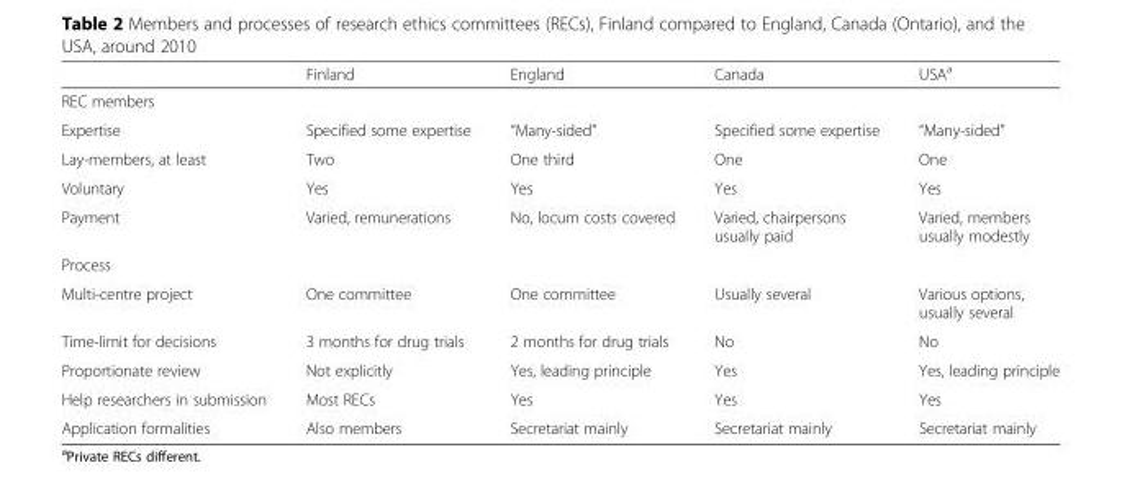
<table><thead><tr><td></td><td>Finland</td><td>England</td><td>Canada</td><td>USA<sup>a</sup></td></tr></thead><tbody><tr><td colspan="5">REC members</td></tr><tr><td>Expertise</td><td>Specified some expertise</td><td>“Many-sided”</td><td>Specified some expertise</td><td>“Many-sided”</td></tr><tr><td>Lay-members, at least</td><td>Two</td><td>One third</td><td>One</td><td>One</td></tr><tr><td>Voluntary</td><td>Yes</td><td>Yes</td><td>Yes</td><td>Yes</td></tr><tr><td>Payment</td><td>Varied, remunerations</td><td>No, locum costs covered</td><td>Varied, chairpersons usually paid</td><td>Varied, members usually modestly</td></tr><tr><td colspan="5">Process</td></tr><tr><td>Multi-centre project</td><td>One committee</td><td>One committee</td><td>Usually several</td><td>Various options, usually several</td></tr><tr><td>Time-limit for decisions</td><td>3 months for drug trials</td><td>2 months for drug trials</td><td>No</td><td>No</td></tr><tr><td>Proportionate review</td><td>Not explicitly</td><td>Yes, leading principle</td><td>Yes</td><td>Yes, leading principle</td></tr><tr><td>Help researchers in submission</td><td>Most RECs</td><td>Yes</td><td>Yes</td><td>Yes</td></tr><tr><td>Application formalities</td><td>Also members</td><td>Secretariat mainly</td><td>Secretariat mainly</td><td>Secretariat mainly</td></tr></tbody></table>